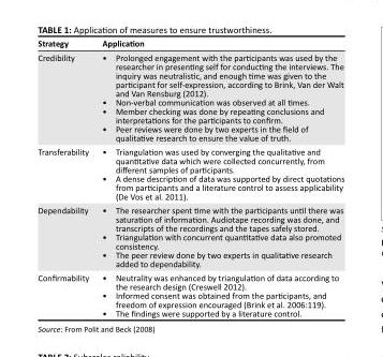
<table><thead><tr><td>Strategy</td><td>Application</td></tr></thead><tbody><tr><td>Credibility</td><td>• Prolonged engagement with the participants was used by the researcher in presenting self for conducting the interviews. The inquiry was neutralistic, and enough time was given to the participant for self-expression, according to Brink, Van der Walt and Van Rensburg (2012). • Non-verbal communication was observed at all times. • Member checking was done by repeating conclusions and interpretations for the participants to confirm. • Peer reviews were done by two experts in the field of qualitative research to ensure the value of truth.</td></tr><tr><td>Transferability</td><td>• Triangulation was used by converging the qualitative and quantitative data which were collected concurrently, from different samples of participants. • A dense description of data was supported by direct quotations from participants and a literature control to assess applicability (De Vos et al. 2011).</td></tr><tr><td>Dependability</td><td>• The researcher spent time with the participants until there was saturation of information. Audiotape recording was done, and transcripts of the recordings and the tapes safely stored. • Triangulation with concurrent quantitative data also promoted consistency. • The peer review done by two experts in qualitative research added to dependability.</td></tr><tr><td>Confirmability</td><td>• Neutrality was enhanced by triangulation of data according to the research design (Creswell 2012). • Informed consent was obtained from the participants, and freedom of expression encouraged (Brink et al. 2006:119). • The findings were supported by a literature control.</td></tr></tbody></table>